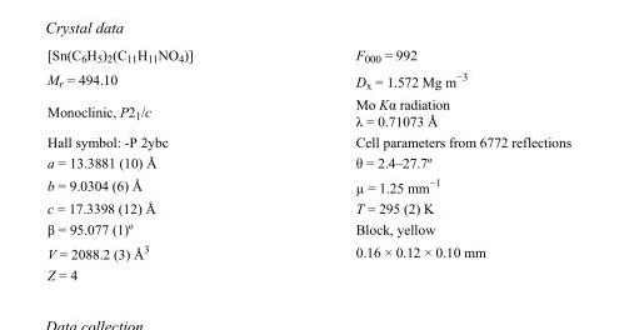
<table><tbody><tr><td>[Sn(C<sub>6</sub>H<sub>5</sub>)<sub>2</sub>(C<sub>11</sub>H<sub>11</sub>NO<sub>4</sub>)]</td><td>F000 = 992</td></tr><tr><td>M<sub>r</sub> = 494.10</td><td>D<sub>x</sub> = 1.572 Mg m<sup>−3</sup></td></tr><tr><td>Monoclinic, P2<sub>1</sub>/c</td><td>Mo Kα radiation λ = 0.71073 Å</td></tr><tr><td>Hall symbol: -P 2ybc</td><td>Cell parameters from 6772 reflections</td></tr><tr><td>a = 13.3881 (10) Å</td><td>θ = 2.4–27.7º</td></tr><tr><td>b = 9.0304 (6) Å</td><td>µ = 1.25 mm<sup>−1</sup></td></tr><tr><td>c = 17.3398 (12) Å</td><td>T = 295 (2) K</td></tr><tr><td>β = 95.077 (1)º</td><td>Block, yellow</td></tr><tr><td>V = 2088.2 (3) Å<sup>3</sup></td><td>0.16 × 0.12 × 0.10 mm</td></tr><tr><td>Z = 4</td><td></td></tr></tbody></table>